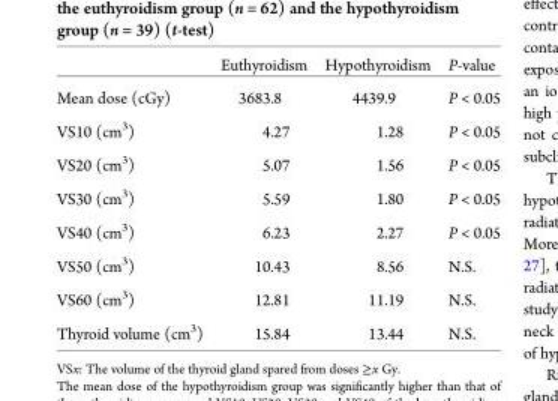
<table><thead><tr><td></td><td>Euthyroidism</td><td>Hypothyroidism</td><td>P-value</td></tr></thead><tbody><tr><td>Mean dose (cGy)</td><td>3683.8</td><td>4439.9</td><td>P &lt; 0.05</td></tr><tr><td>VS10 (cm<sup>3</sup>)</td><td>4.27</td><td>1.28</td><td>P &lt; 0.05</td></tr><tr><td>VS20 (cm<sup>3</sup>)</td><td>5.07</td><td>1.56</td><td>P &lt; 0.05</td></tr><tr><td>VS30 (cm<sup>3</sup>)</td><td>5.59</td><td>1.80</td><td>P &lt; 0.05</td></tr><tr><td>VS40 (cm<sup>3</sup>)</td><td>6.23</td><td>2.27</td><td>P &lt; 0.05</td></tr><tr><td>VS50 (cm<sup>3</sup>)</td><td>10.43</td><td>8.56</td><td>N.S.</td></tr><tr><td>VS60 (cm<sup>3</sup>)</td><td>12.81</td><td>11.19</td><td>N.S.</td></tr><tr><td>Thyroid volume (cm<sup>3</sup>)</td><td>15.84</td><td>13.44</td><td>N.S.</td></tr></tbody></table>